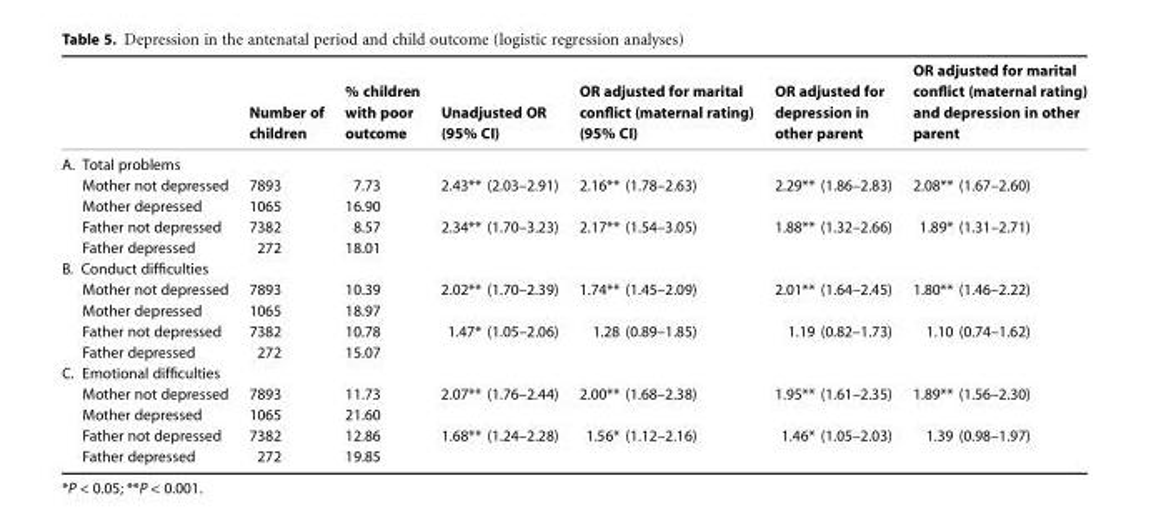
<table><thead><tr><td></td><td>Number of children</td><td>% children with poor outcome</td><td>Unadjusted OR (95% CI)</td><td>OR adjusted for marital conflict (maternal rating) (95% CI)</td><td>OR adjusted for depression in other parent</td><td>OR adjusted for marital conflict (maternal rating) and depression in other parent</td></tr></thead><tbody><tr><td colspan="7">A. Total problems</td></tr><tr><td>Mother not depressed</td><td>7893</td><td>7.73</td><td rowspan="2">2.43** (2.03–2.91)</td><td rowspan="2">2.16** (1.78–2.63)</td><td rowspan="2">2.29** (1.86–2.83)</td><td rowspan="2">2.08** (1.67–2.60)</td></tr><tr><td>Mother depressed</td><td>1065</td><td>16.90</td></tr><tr><td>Father not depressed</td><td>7382</td><td>8.57</td><td rowspan="2">2.34** (1.70–3.23)</td><td rowspan="2">2.17** (1.54–3.05)</td><td rowspan="2">1.88** (1.32–2.66)</td><td rowspan="2">1.89* (1.31–2.71)</td></tr><tr><td>Father depressed</td><td>272</td><td>18.01</td></tr><tr><td colspan="7">B. Conduct difficulties</td></tr><tr><td>Mother not depressed</td><td>7893</td><td>10.39</td><td rowspan="2">2.02** (1.70–2.39)</td><td rowspan="2">1.74** (1.45–2.09)</td><td rowspan="2">2.01** (1.64–2.45)</td><td rowspan="2">1.80** (1.46–2.22)</td></tr><tr><td>Mother depressed</td><td>1065</td><td>18.97</td></tr><tr><td>Father not depressed</td><td>7382</td><td>10.78</td><td rowspan="2">1.47* (1.05–2.06)</td><td rowspan="2">1.28 (0.89–1.85)</td><td rowspan="2">1.19 (0.82–1.73)</td><td rowspan="2">1.10 (0.74–1.62)</td></tr><tr><td>Father depressed</td><td>272</td><td>15.07</td></tr><tr><td colspan="7">C. Emotional difficulties</td></tr><tr><td>Mother not depressed</td><td>7893</td><td>11.73</td><td rowspan="2">2.07** (1.76–2.44)</td><td rowspan="2">2.00** (1.68–2.38)</td><td rowspan="2">1.95** (1.61–2.35)</td><td rowspan="2">1.89** (1.56–2.30)</td></tr><tr><td>Mother depressed</td><td>1065</td><td>21.60</td></tr><tr><td>Father not depressed</td><td>7382</td><td>12.86</td><td rowspan="2">1.68** (1.24–2.28)</td><td rowspan="2">1.56* (1.12–2.16)</td><td rowspan="2">1.46* (1.05–2.03)</td><td rowspan="2">1.39 (0.98–1.97)</td></tr><tr><td>Father depressed</td><td>272</td><td>19.85</td></tr></tbody></table>